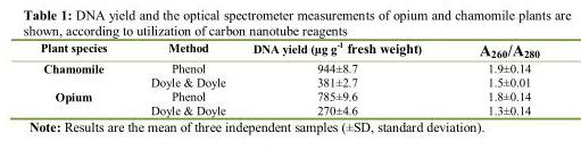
<table><thead><tr><td>Plant species</td><td>Method</td><td>DNA yield (μg g<sup>-1</sup> fresh weight)</td><td>A<sub>260</sub>/A<sub>280</sub></td></tr></thead><tbody><tr><td>Chamomile</td><td>Phenol Doyle &amp; Doyle</td><td>944±8.7 381±2.7</td><td>1.9±0.14 1.5±0.01</td></tr><tr><td>Opium</td><td>Phenol Doyle &amp; Doyle</td><td>785±9.6 270±4.6</td><td>1.8±0.14 1.3±0.14</td></tr></tbody></table>